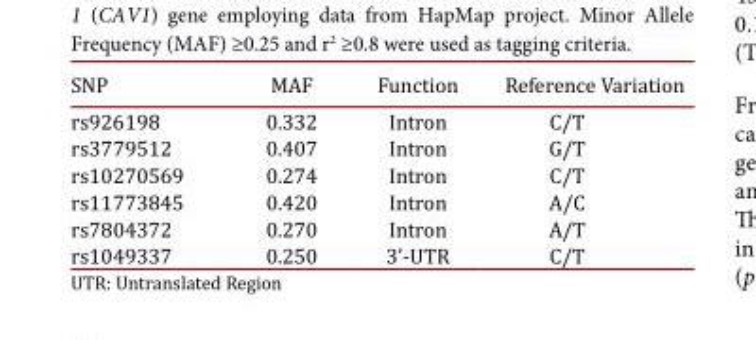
<table><thead><tr><td>SNP</td><td>MAF</td><td>Function</td><td>Reference Variation</td></tr></thead><tbody><tr><td>rs926198</td><td>0.332</td><td>Intron</td><td>C/T</td></tr><tr><td>rs3779512</td><td>0.407</td><td>Intron</td><td>G/T</td></tr><tr><td>rs10270569</td><td>0.274</td><td>Intron</td><td>C/T</td></tr><tr><td>rs11773845</td><td>0.420</td><td>Intron</td><td>A/C</td></tr><tr><td>rs7804372</td><td>0.270</td><td>Intron</td><td>A/T</td></tr><tr><td>rs1049337</td><td>0.250</td><td>3’-UTR</td><td>C/T</td></tr></tbody></table>